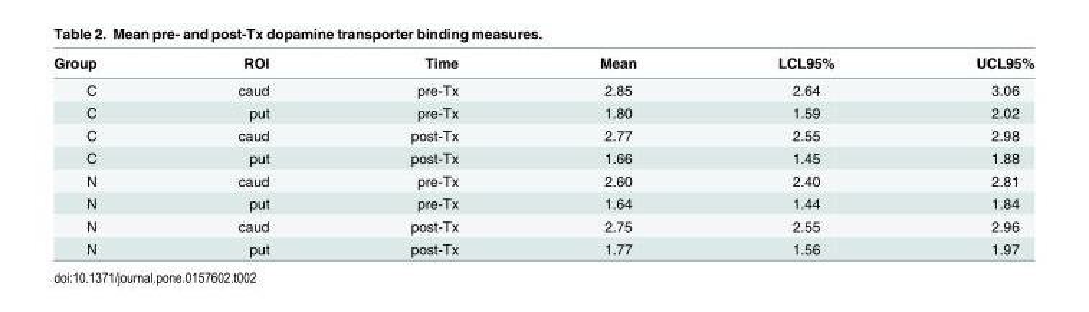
<table><thead><tr><td>Group</td><td>ROI</td><td>Time</td><td>Mean</td><td>LCL95%</td><td>UCL95%</td></tr></thead><tbody><tr><td>C</td><td>caud</td><td>pre-Tx</td><td>2.85</td><td>2.64</td><td>3.06</td></tr><tr><td>C</td><td>put</td><td>pre-Tx</td><td>1.80</td><td>1.59</td><td>2.02</td></tr><tr><td>C</td><td>caud</td><td>post-Tx</td><td>2.77</td><td>2.55</td><td>2.98</td></tr><tr><td>C</td><td>put</td><td>post-Tx</td><td>1.66</td><td>1.45</td><td>1.88</td></tr><tr><td>N</td><td>caud</td><td>pre-Tx</td><td>2.60</td><td>2.40</td><td>2.81</td></tr><tr><td>N</td><td>put</td><td>pre-Tx</td><td>1.64</td><td>1.44</td><td>1.84</td></tr><tr><td>N</td><td>caud</td><td>post-Tx</td><td>2.75</td><td>2.55</td><td>2.96</td></tr><tr><td>N</td><td>put</td><td>post-Tx</td><td>1.77</td><td>1.56</td><td>1.97</td></tr></tbody></table>